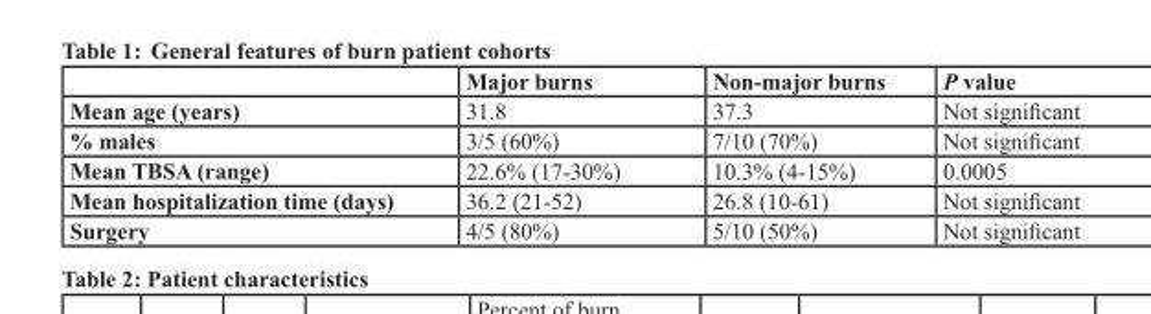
<table><thead><tr><td></td><td>Major burns</td><td>Non-major burns</td><td>P value</td></tr></thead><tbody><tr><td>Mean age (years)</td><td>31.8</td><td>37.3</td><td>Not significant</td></tr><tr><td>% males</td><td>3/5 (60%)</td><td>7/10 (70%)</td><td>Not significant</td></tr><tr><td>Mean TBSA (range)</td><td>22.6% (17-30%)</td><td>10.3% (4-15%)</td><td>0.0005</td></tr><tr><td>Mean hospitalization time (days)</td><td>36.2 (21-52)</td><td>26.8 (10-61)</td><td>Not significant</td></tr><tr><td>Surgery</td><td>4/5 (80%)</td><td>5/10 (50%)</td><td>Not significant</td></tr></tbody></table>